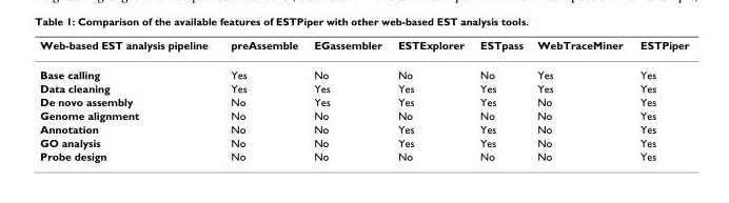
<table><thead><tr><td>Web-based EST analysis pipeline</td><td>preAssemble</td><td>EGassembler</td><td>ESTExplorer</td><td>ESTpass</td><td>WebTraceMiner</td><td>ESTPiper</td></tr></thead><tbody><tr><td>Base calling</td><td>Yes</td><td>No</td><td>No</td><td>No</td><td>Yes</td><td>Yes</td></tr><tr><td>Data cleaning</td><td>Yes</td><td>Yes</td><td>Yes</td><td>Yes</td><td>Yes</td><td>Yes</td></tr><tr><td>De novo assembly</td><td>No</td><td>Yes</td><td>Yes</td><td>Yes</td><td>No</td><td>Yes</td></tr><tr><td>Genome alignment</td><td>No</td><td>No</td><td>No</td><td>No</td><td>No</td><td>Yes</td></tr><tr><td>Annotation</td><td>No</td><td>No</td><td>Yes</td><td>Yes</td><td>No</td><td>Yes</td></tr><tr><td>GO analysis</td><td>No</td><td>No</td><td>Yes</td><td>Yes</td><td>No</td><td>Yes</td></tr><tr><td>Probe design</td><td>No</td><td>No</td><td>No</td><td>No</td><td>No</td><td>Yes</td></tr></tbody></table>